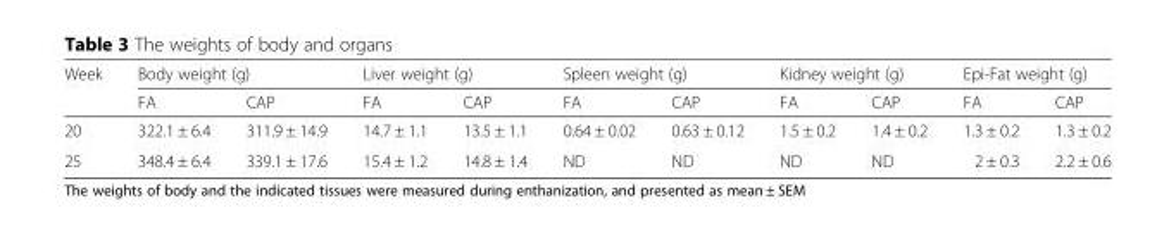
<table><thead><tr><td rowspan="2">Week</td><td colspan="2">Body weight (g)</td><td colspan="2">Liver weight (g)</td><td colspan="2">Spleen weight (g)</td><td colspan="2">Kidney weight (g)</td><td colspan="2">Epi-Fat weight (g)</td></tr><tr><td>FA</td><td>CAP</td><td>FA</td><td>CAP</td><td>FA</td><td>CAP</td><td>FA</td><td>CAP</td><td>FA</td><td>CAP</td></tr></thead><tbody><tr><td>20</td><td>322.1 ± 6.4</td><td>311.9 ± 14.9</td><td>14.7 ± 1.1</td><td>13.5 ± 1.1</td><td>0.64 ± 0.02</td><td>0.63 ± 0.12</td><td>1.5 ± 0.2</td><td>1.4 ± 0.2</td><td>1.3 ± 0.2</td><td>1.3 ± 0.2</td></tr><tr><td>25</td><td>348.4 ± 6.4</td><td>339.1 ± 17.6</td><td>15.4 ± 1.2</td><td>14.8 ± 1.4</td><td>ND</td><td>ND</td><td>ND</td><td>ND</td><td>2 ± 0.3</td><td>2.2 ± 0.6</td></tr></tbody></table>